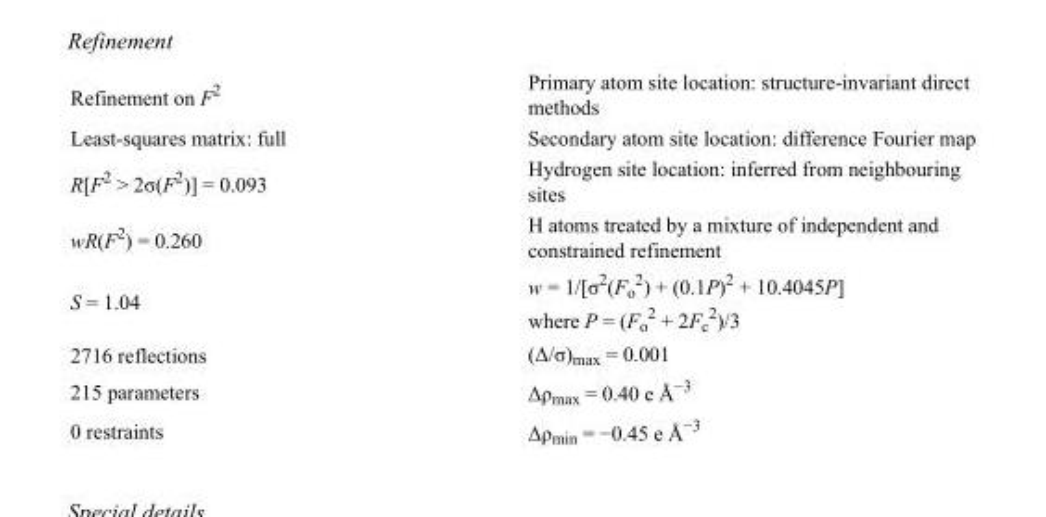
<table><tbody><tr><td>Refinement on F<sup>2</sup></td><td>Primary atom site location: structure-invariant direct methods</td></tr><tr><td>Least-squares matrix: full</td><td>Secondary atom site location: difference Fourier map</td></tr><tr><td>R[F<sup>2</sup> &gt; 2σ(F<sup>2</sup>)] = 0.093</td><td>Hydrogen site location: inferred from neighbouring sites</td></tr><tr><td>wR(F<sup>2</sup>) = 0.260</td><td>H atoms treated by a mixture of independent and constrained refinement</td></tr><tr><td>S = 1.04</td><td>w = 1/[σ<sup>2</sup>(F<sub>o</sub> <sup>2</sup>) + (0.1P)<sup>2</sup> + 10.4045P] where P = (F<sub>o</sub> <sup>2</sup> + 2F<sub>c</sub> <sup>2</sup>)/3</td></tr><tr><td>2716 reflections</td><td>(Δ/σ)<sub>max</sub> = 0.001</td></tr><tr><td>215 parameters</td><td>Δρ<sub>max</sub> = 0.40 e Å<sup>−3</sup></td></tr><tr><td>0 restraints</td><td>Δρ<sub>min</sub> = −0.45 e Å<sup>−3</sup></td></tr></tbody></table>